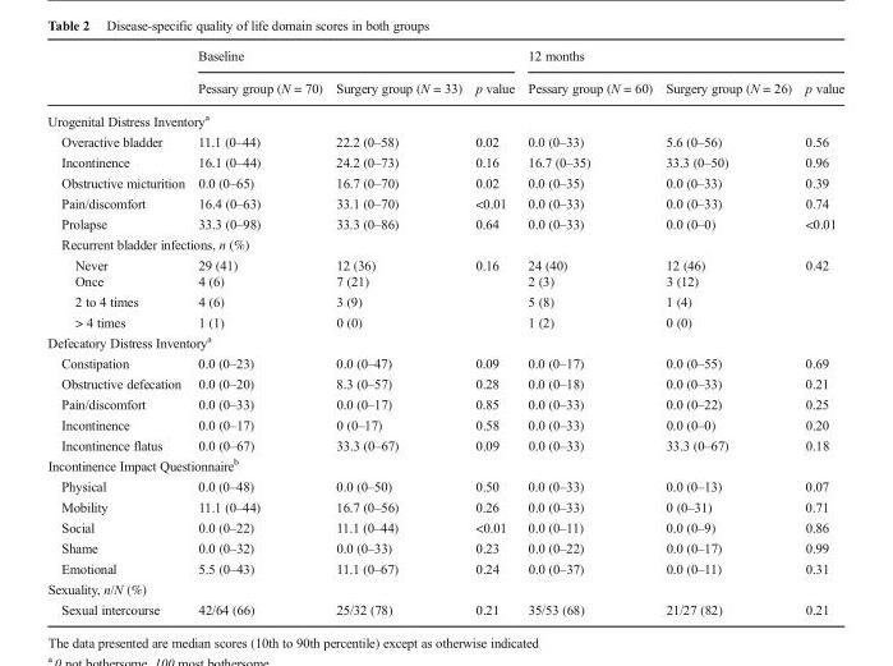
<table><thead><tr><td rowspan="2"></td><td colspan="3">Baseline</td><td colspan="3">12 months</td></tr><tr><td>Pessary group (N = 70)</td><td>Surgery group (N = 33)</td><td>p value</td><td>Pessary group (N = 60)</td><td>Surgery group (N = 26)</td><td>p value</td></tr></thead><tbody><tr><td colspan="7">Urogenital Distress Inventory<sup>a</sup></td></tr><tr><td>Overactive bladder</td><td>11.1 (0–44)</td><td>22.2 (0–58)</td><td>0.02</td><td>0.0 (0–33)</td><td>5.6 (0–56)</td><td>0.56</td></tr><tr><td>Incontinence</td><td>16.1 (0–44)</td><td>24.2 (0–73)</td><td>0.16</td><td>16.7 (0–35)</td><td>33.3 (0–50)</td><td>0.96</td></tr><tr><td>Obstructive micturition</td><td>0.0 (0–65)</td><td>16.7 (0–70)</td><td>0.02</td><td>0.0 (0–35)</td><td>0.0 (0–33)</td><td>0.39</td></tr><tr><td>Pain/discomfort</td><td>16.4 (0–63)</td><td>33.1 (0–70)</td><td>&lt;0.01</td><td>0.0 (0–33)</td><td>0.0 (0–33)</td><td>0.74</td></tr><tr><td>Prolapse</td><td>33.3 (0–98)</td><td>33.3 (0–86)</td><td>0.64</td><td>0.0 (0–33)</td><td>0.0 (0–0)</td><td>&lt;0.01</td></tr><tr><td colspan="7">Recurrent bladder infections, n (%)</td></tr><tr><td>Never</td><td>29 (41)</td><td>12 (36)</td><td rowspan="4">0.16</td><td>24 (40)</td><td>12 (46)</td><td rowspan="4">0.42</td></tr><tr><td>Once</td><td>4 (6)</td><td>7 (21)</td><td>2 (3)</td><td>3 (12)</td></tr><tr><td>2 to 4 times</td><td>4 (6)</td><td>3 (9)</td><td>5 (8)</td><td>1 (4)</td></tr><tr><td>&gt; 4 times</td><td>1 (1)</td><td>0 (0)</td><td>1 (2)</td><td>0 (0)</td></tr><tr><td colspan="7">Defecatory Distress Inventory<sup>a</sup></td></tr><tr><td>Constipation</td><td>0.0 (0–23)</td><td>0.0 (0–47)</td><td>0.09</td><td>0.0 (0–17)</td><td>0.0 (0–55)</td><td>0.69</td></tr><tr><td>Obstructive defecation</td><td>0.0 (0–20)</td><td>8.3 (0–57)</td><td>0.28</td><td>0.0 (0–18)</td><td>0.0 (0–33)</td><td>0.21</td></tr><tr><td>Pain/discomfort</td><td>0.0 (0–33)</td><td>0.0 (0–17)</td><td>0.85</td><td>0.0 (0–33)</td><td>0.0 (0–22)</td><td>0.25</td></tr><tr><td>Incontinence</td><td>0.0 (0–17)</td><td>0 (0–17)</td><td>0.58</td><td>0.0 (0–33)</td><td>0.0 (0–0)</td><td>0.20</td></tr><tr><td>Incontinence flatus</td><td>0.0 (0–67)</td><td>33.3 (0–67)</td><td>0.09</td><td>0.0 (0–33)</td><td>33.3 (0–67)</td><td>0.18</td></tr><tr><td colspan="7">Incontinence Impact Questionnaire<sup>b</sup></td></tr><tr><td>Physical</td><td>0.0 (0–48)</td><td>0.0 (0–50)</td><td>0.50</td><td>0.0 (0–33)</td><td>0.0 (0–13)</td><td>0.07</td></tr><tr><td>Mobility</td><td>11.1 (0–44)</td><td>16.7 (0–56)</td><td>0.26</td><td>0.0 (0–33)</td><td>0 (0–31)</td><td>0.71</td></tr><tr><td>Social</td><td>0.0 (0–22)</td><td>11.1 (0–44)</td><td>&lt;0.01</td><td>0.0 (0–11)</td><td>0.0 (0–9)</td><td>0.86</td></tr><tr><td>Shame</td><td>0.0 (0–32)</td><td>0.0 (0–33)</td><td>0.23</td><td>0.0 (0–22)</td><td>0.0 (0–17)</td><td>0.99</td></tr><tr><td>Emotional</td><td>5.5 (0–43)</td><td>11.1 (0–67)</td><td>0.24</td><td>0.0 (0–37)</td><td>0.0 (0–11)</td><td>0.31</td></tr><tr><td colspan="7">Sexuality, n/N (%)</td></tr><tr><td>Sexual intercourse</td><td>42/64 (66)</td><td>25/32 (78)</td><td>0.21</td><td>35/53 (68)</td><td>21/27 (82)</td><td>0.21</td></tr></tbody></table>